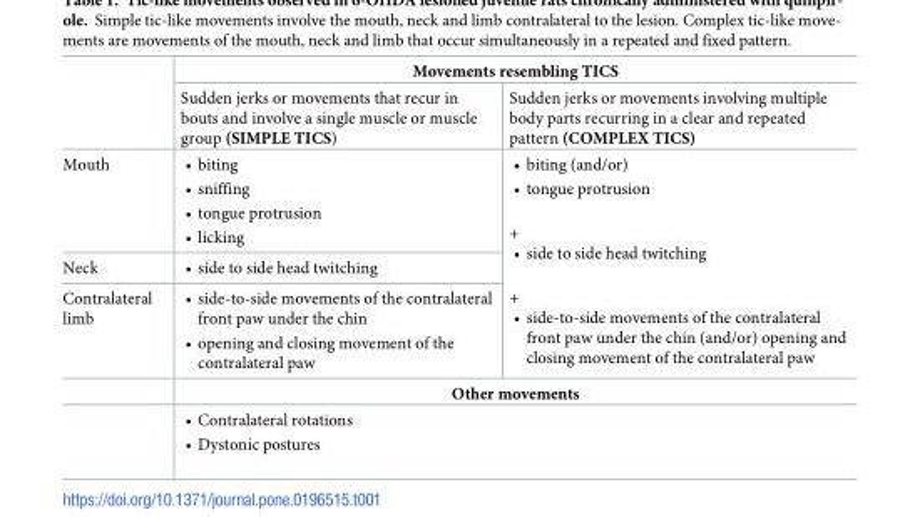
<table><thead><tr><td rowspan="2"></td><td colspan="2">Movements resembling TICS</td></tr><tr><td>Sudden jerks or movements that recur in bouts and involve a single muscle or muscle group (SIMPLE TICS)</td><td>Sudden jerks or movements involving multiple body parts recurring in a clear and repeated pattern (COMPLEX TICS)</td></tr></thead><tbody><tr><td>Mouth</td><td>• biting • sniffing • tongue protrusion • licking</td><td rowspan="3">• biting (and/or) • tongue protrusion + • side to side head twitching + • side-to-side movements of the contralateral front paw under the chin (and/or) opening and closing movement of the contralateral paw</td></tr><tr><td>Neck</td><td>• side to side head twitching</td></tr><tr><td rowspan="3">Contralateral limb</td><td>• side-to-side movements of the contralateral front paw under the chin • opening and closing movement of the contralateral paw</td></tr><tr><td colspan="2">Other movements</td></tr><tr><td colspan="2">• Contralateral rotations • Dystonic postures</td></tr></tbody></table>